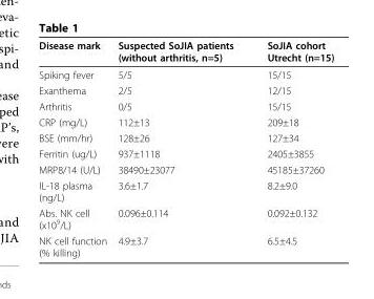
<table><thead><tr><td>Disease mark</td><td>Suspected SoJIA patients (without arthritis, n=5)</td><td>SoJIA cohort Utrecht (n=15)</td></tr></thead><tbody><tr><td>Spiking fever</td><td>5/5</td><td>15/15</td></tr><tr><td>Exanthema</td><td>2/5</td><td>12/15</td></tr><tr><td>Arthritis</td><td>0/5</td><td>15/15</td></tr><tr><td>CRP (mg/L)</td><td>112±13</td><td>209±18</td></tr><tr><td>BSE (mm/hr)</td><td>128±26</td><td>127±34</td></tr><tr><td>Ferritin (ug/L)</td><td>937±1118</td><td>2405±3855</td></tr><tr><td>MRP8/14 (U/L)</td><td>38490±23077</td><td>45185±37260</td></tr><tr><td>IL-18 plasma (ng/L)</td><td>3.6±1.7</td><td>8.2±9.0</td></tr><tr><td>Abs. NK cell (x10<sup>9</sup>/L)</td><td>0.096±0.114</td><td>0.092±0.132</td></tr><tr><td>NK cell function (% killing)</td><td>4.9±3.7</td><td>6.5±4.5</td></tr></tbody></table>